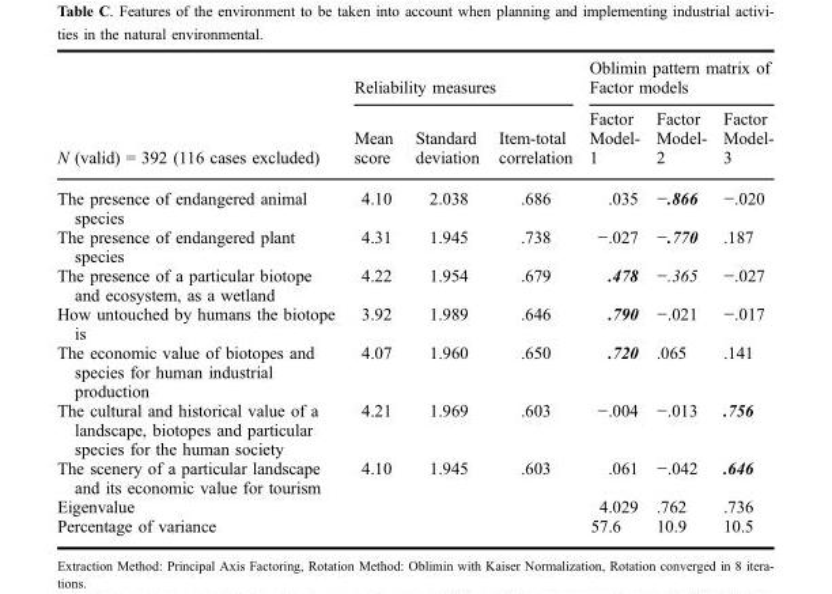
<table><thead><tr><td rowspan="2">N (valid) = 392 (116 cases excluded)</td><td colspan="3">Reliability measures</td><td colspan="3">Oblimin pattern matrix of Factor models</td></tr><tr><td>Mean score</td><td>Standard deviation</td><td>Item-total correlation</td><td>Factor Model- 1</td><td>Factor Model- 2</td><td>Factor Model- 3</td></tr></thead><tbody><tr><td>The presence of endangered animal species</td><td>4.10</td><td>2.038</td><td>.686</td><td>.035</td><td>−.866</td><td>−.020</td></tr><tr><td>The presence of endangered plant species</td><td>4.31</td><td>1.945</td><td>.738</td><td>−.027</td><td>−.770</td><td>.187</td></tr><tr><td>The presence of a particular biotope and ecosystem, as a wetland</td><td>4.22</td><td>1.954</td><td>.679</td><td>.478</td><td>−.365</td><td>−.027</td></tr><tr><td>How untouched by humans the biotope is</td><td>3.92</td><td>1.989</td><td>.646</td><td>.790</td><td>−.021</td><td>−.017</td></tr><tr><td>The economic value of biotopes and species for human industrial production</td><td>4.07</td><td>1.960</td><td>.650</td><td>.720</td><td>.065</td><td>.141</td></tr><tr><td>The cultural and historical value of a landscape, biotopes and particular species for the human society</td><td>4.21</td><td>1.969</td><td>.603</td><td>−.004</td><td>−.013</td><td>.756</td></tr><tr><td>The scenery of a particular landscape and its economic value for tourism</td><td>4.10</td><td>1.945</td><td>.603</td><td>.061</td><td>−.042</td><td>.646</td></tr><tr><td>Eigenvalue</td><td></td><td></td><td></td><td>4.029</td><td>.762</td><td>.736</td></tr><tr><td>Percentage of variance</td><td></td><td></td><td></td><td>57.6</td><td>10.9</td><td>10.5</td></tr></tbody></table>